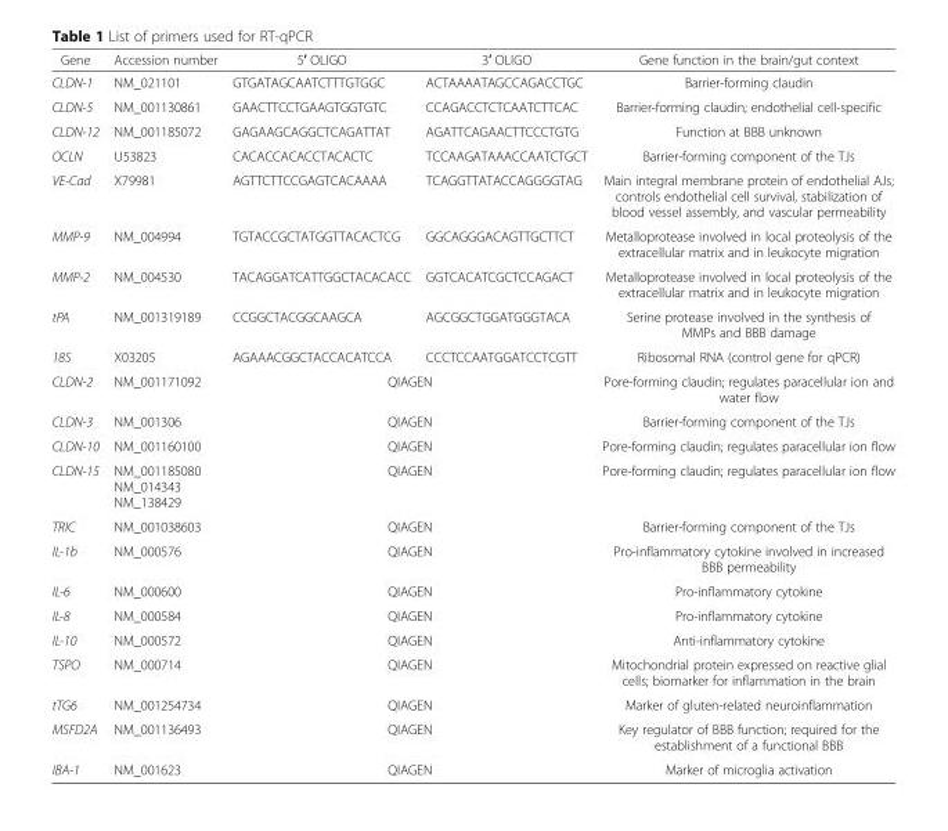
<table><thead><tr><td>Gene</td><td>Accession number</td><td>5′ OLIGO</td><td>3′ OLIGO</td><td>Gene function in the brain/gut context</td></tr></thead><tbody><tr><td>CLDN-1</td><td>NM_021101</td><td>GTGATAGCAATCTTTGTGGC</td><td>ACTAAAATAGCCAGACCTGC</td><td>Barrier-forming claudin</td></tr><tr><td>CLDN-5</td><td>NM_001130861</td><td>GAACTTCCTGAAGTGGTGTC</td><td>CCAGACCTCTCAATCTTCAC</td><td>Barrier-forming claudin; endothelial cell-specific</td></tr><tr><td>CLDN-12</td><td>NM_001185072</td><td>GAGAAGCAGGCTCAGATTAT</td><td>AGATTCAGAACTTCCCTGTG</td><td>Function at BBB unknown</td></tr><tr><td>OCLN</td><td>U53823</td><td>CACACCACACCTACACTC</td><td>TCCAAGATAAACCAATCTGCT</td><td>Barrier-forming component of the TJs</td></tr><tr><td>VE-Cad</td><td>X79981</td><td>AGTTCTTCCGAGTCACAAAA</td><td>TCAGGTTATACCAGGGGTAG</td><td>Main integral membrane protein of endothelial AJs; controls endothelial cell survival, stabilization of blood vessel assembly, and vascular permeability</td></tr><tr><td>MMP-9</td><td>NM_004994</td><td>TGTACCGCTATGGTTACACTCG</td><td>GGCAGGGACAGTTGCTTCT</td><td>Metalloprotease involved in local proteolysis of the extracellular matrix and in leukocyte migration</td></tr><tr><td>MMP-2</td><td>NM_004530</td><td>TACAGGATCATTGGCTACACACC</td><td>GGTCACATCGCTCCAGACT</td><td>Metalloprotease involved in local proteolysis of the extracellular matrix and in leukocyte migration</td></tr><tr><td>tPA</td><td>NM_001319189</td><td>CCGGCTACGGCAAGCA</td><td>AGCGGCTGGATGGGTACA</td><td>Serine protease involved in the synthesis of MMPs and BBB damage</td></tr><tr><td>18S</td><td>X03205</td><td>AGAAACGGCTACCACATCCA</td><td>CCCTCCAATGGATCCTCGTT</td><td>Ribosomal RNA (control gene for qPCR)</td></tr><tr><td>CLDN-2</td><td>NM_001171092</td><td colspan="2">QIAGEN</td><td>Pore-forming claudin; regulates paracellular ion and water flow</td></tr><tr><td>CLDN-3</td><td>NM_001306</td><td colspan="2">QIAGEN</td><td>Barrier-forming component of the TJs</td></tr><tr><td>CLDN-10</td><td>NM_001160100</td><td colspan="2">QIAGEN</td><td>Pore-forming claudin; regulates paracellular ion flow</td></tr><tr><td>CLDN-15</td><td>NM_001185080 NM_014343 NM_138429</td><td colspan="2">QIAGEN</td><td>Pore-forming claudin; regulates paracellular ion flow</td></tr><tr><td>TRIC</td><td>NM_001038603</td><td colspan="2">QIAGEN</td><td>Barrier-forming component of the TJs</td></tr><tr><td>IL-1b</td><td>NM_000576</td><td colspan="2">QIAGEN</td><td>Pro-inflammatory cytokine involved in increased BBB permeability</td></tr><tr><td>IL-6</td><td>NM_000600</td><td colspan="2">QIAGEN</td><td>Pro-inflammatory cytokine</td></tr><tr><td>IL-8</td><td>NM_000584</td><td colspan="2">QIAGEN</td><td>Pro-inflammatory cytokine</td></tr><tr><td>IL-10</td><td>NM_000572</td><td colspan="2">QIAGEN</td><td>Anti-inflammatory cytokine</td></tr><tr><td>TSPO</td><td>NM_000714</td><td colspan="2">QIAGEN</td><td>Mitochondrial protein expressed on reactive glial cells; biomarker for inflammation in the brain</td></tr><tr><td>tTG6</td><td>NM_001254734</td><td colspan="2">QIAGEN</td><td>Marker of gluten-related neuroinflammation</td></tr><tr><td>MSFD2A</td><td>NM_001136493</td><td colspan="2">QIAGEN</td><td>Key regulator of BBB function; required for the establishment of a functional BBB</td></tr><tr><td>IBA-1</td><td>NM_001623</td><td colspan="2">QIAGEN</td><td>Marker of microglia activation</td></tr></tbody></table>